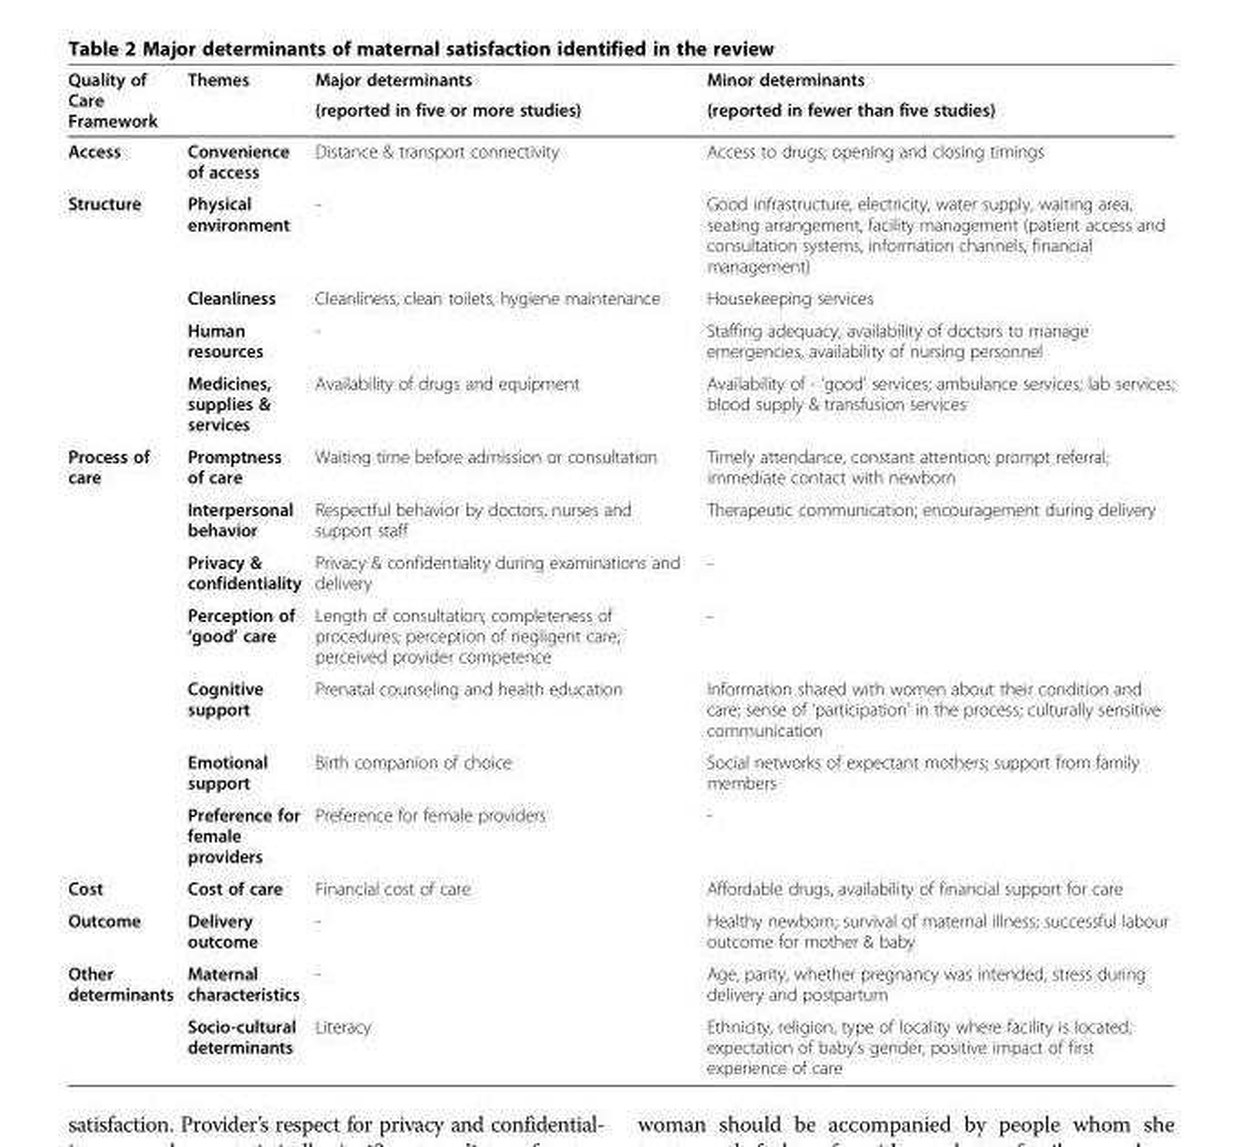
<table><thead><tr><td rowspan="2">Quality of Care Framework</td><td rowspan="2">Themes</td><td rowspan="2">Major determinants (reported in five or more studies)</td><td rowspan="2">Minor determinants (reported in fewer than five studies)</td></tr><tr></tr></thead><tbody><tr><td>Access</td><td>Convenience of access</td><td>Distance &amp; transport connectivity</td><td>Access to drugs; opening and closing timings</td></tr><tr><td rowspan="4">Structure</td><td>Physical environment</td><td>-</td><td>Good infrastructure, electricity, water supply, waiting area, seating arrangement, facility management (patient access and consultation systems, information channels, financial management)</td></tr><tr><td>Cleanliness</td><td>Cleanliness, clean toilets, hygiene maintenance</td><td>Housekeeping services</td></tr><tr><td>Human resources</td><td>-</td><td>Staffing adequacy, availability of doctors to manage emergencies, availability of nursing personnel</td></tr><tr><td>Medicines, supplies &amp; services</td><td>Availability of drugs and equipment</td><td>Availability of - ‘good’ services; ambulance services; lab services; blood supply &amp; transfusion services</td></tr><tr><td rowspan="7">Process of care</td><td>Promptness of care</td><td>Waiting time before admission or consultation</td><td>Timely attendance, constant attention; prompt referral; immediate contact with newborn</td></tr><tr><td>Interpersonal behavior</td><td>Respectful behavior by doctors, nurses and support staff</td><td>Therapeutic communication; encouragement during delivery</td></tr><tr><td>Privacy &amp; confidentiality</td><td>Privacy &amp; confidentiality during examinations and delivery</td><td>-</td></tr><tr><td>Perception of ‘good’ care</td><td>Length of consultation; completeness of procedures; perception of negligent care; perceived provider competence</td><td>-</td></tr><tr><td>Cognitive support</td><td>Prenatal counseling and health education</td><td>Information shared with women about their condition and care; sense of ‘participation’ in the process; culturally sensitive communication</td></tr><tr><td>Emotional support</td><td>Birth companion of choice</td><td>Social networks of expectant mothers; support from family members</td></tr><tr><td>Preference for female providers</td><td>Preference for female providers</td><td>-</td></tr><tr><td>Cost</td><td>Cost of care</td><td>Financial cost of care</td><td>Affordable drugs, availability of financial support for care</td></tr><tr><td>Outcome</td><td>Delivery outcome</td><td>-</td><td>Healthy newborn; survival of maternal illness; successful labour outcome for mother &amp; baby</td></tr><tr><td rowspan="2">Other determinants</td><td>Maternal characteristics</td><td>-</td><td>Age, parity, whether pregnancy was intended, stress during delivery and postpartum</td></tr><tr><td>Socio-cultural determinants</td><td>Literacy</td><td>Ethnicity, religion, type of locality where facility is located, expectation of baby’s gender, positive impact of first experience of care</td></tr></tbody></table>